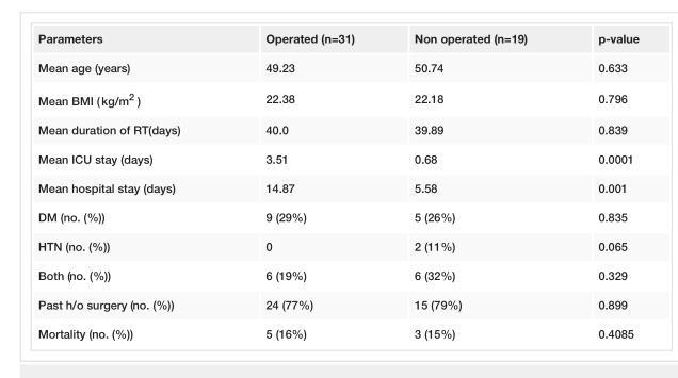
<table><tbody><tr><td>Parameters</td><td>Operated (n=31)</td><td>Non operated (n=19)</td><td>p-value</td></tr><tr><td>Mean age (years)</td><td>49.23</td><td>50.74</td><td>0.633</td></tr><tr><td>Mean BMI ( kg/m<sup>2</sup> )</td><td>22.38</td><td>22.18</td><td>0.796</td></tr><tr><td>Mean duration of RT(days)</td><td>40.0</td><td>39.89</td><td>0.839</td></tr><tr><td>Mean ICU stay (days)</td><td>3.51</td><td>0.68</td><td>0.0001</td></tr><tr><td>Mean hospital stay (days)</td><td>14.87</td><td>5.58</td><td>0.001</td></tr><tr><td>DM (no. (%))</td><td>9 (29%)</td><td>5 (26%)</td><td>0.835</td></tr><tr><td>HTN (no. (%))</td><td>0</td><td>2 (11%)</td><td>0.065</td></tr><tr><td>Both (no. (%))</td><td>6 (19%)</td><td>6 (32%)</td><td>0.329</td></tr><tr><td>Past h/o surgery (no. (%))</td><td>24 (77%)</td><td>15 (79%)</td><td>0.899</td></tr><tr><td>Mortality (no. (%))</td><td>5 (16%)</td><td>3 (15%)</td><td>0.4085</td></tr></tbody></table>